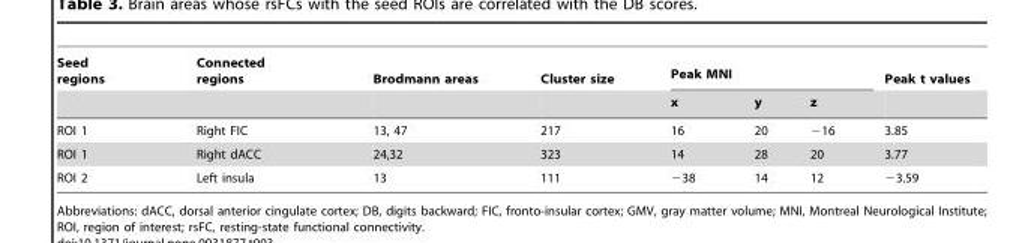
<table><thead><tr><td rowspan="2">Seed regions</td><td rowspan="2">Connected regions</td><td rowspan="2">Brodmann areas</td><td rowspan="2">Cluster size</td><td colspan="3">Peak MNI</td><td rowspan="2">Peak t values</td></tr><tr><td>x</td><td>y</td><td>z</td></tr></thead><tbody><tr><td>ROI 1</td><td>Right FIC</td><td>13, 47</td><td>217</td><td>16</td><td>20</td><td>−16</td><td>3.85</td></tr><tr><td>ROI 1</td><td>Right dACC</td><td>24,32</td><td>323</td><td>14</td><td>28</td><td>20</td><td>3.77</td></tr><tr><td>ROI 2</td><td>Left insula</td><td>13</td><td>111</td><td>−38</td><td>14</td><td>12</td><td>−3.59</td></tr></tbody></table>